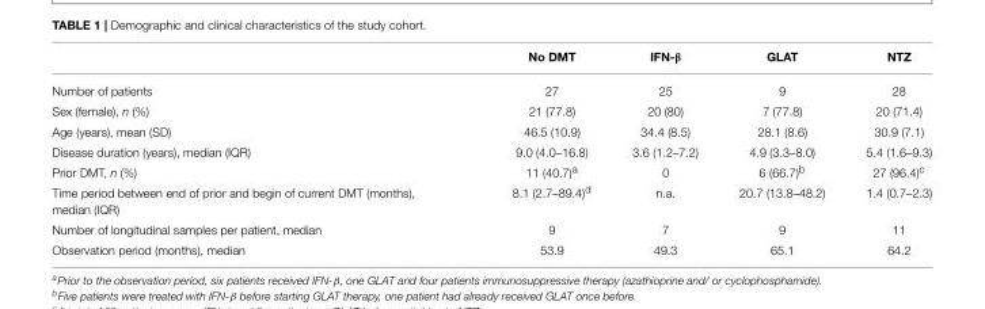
<table><thead><tr><td></td><td>No DMT</td><td>IFN-β</td><td>GLAT</td><td>NTZ</td></tr></thead><tbody><tr><td>Number of patients</td><td>27</td><td>25</td><td>9</td><td>28</td></tr><tr><td>Sex (female), n (%)</td><td>21 (77.8)</td><td>20 (80)</td><td>7 (77.8)</td><td>20 (71.4)</td></tr><tr><td>Age (years), mean (SD)</td><td>46.5 (10.9)</td><td>34.4 (8.5)</td><td>28.1 (8.6)</td><td>30.9 (7.1)</td></tr><tr><td>Disease duration (years), median (IQR)</td><td>9.0 (4.0–16.8)</td><td>3.6 (1.2–7.2)</td><td>4.9 (3.3–8.0)</td><td>5.4 (1.6–9.3)</td></tr><tr><td>Prior DMT, n (%)</td><td>11 (40.7)<sup>a</sup></td><td>0</td><td>6 (66.7)<sup>b</sup></td><td>27 (96.4)<sup>c</sup></td></tr><tr><td>Time period between end of prior and begin of current DMT (months), median (IQR)</td><td>8.1 (2.7–89.4)<sup>d</sup></td><td>n.a.</td><td>20.7 (13.8–48.2)</td><td>1.4 (0.7–2.3)</td></tr><tr><td>Number of longitudinal samples per patient, median</td><td>9</td><td>7</td><td>9</td><td>11</td></tr><tr><td>Observation period (months), median</td><td>53.9</td><td>49.3</td><td>65.1</td><td>64.2</td></tr></tbody></table>